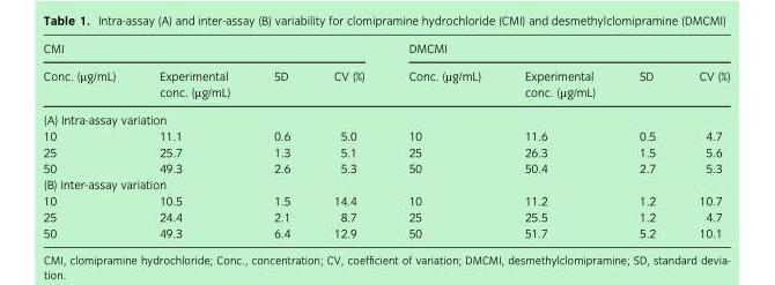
<table><thead><tr><td colspan="4">CMI</td><td colspan="4">DMCMI</td></tr><tr><td>Conc. (μg/mL)</td><td>Experimental conc. (μg/mL)</td><td>SD</td><td>CV (%)</td><td>Conc. (μg/mL)</td><td>Experimental conc. (μg/mL)</td><td>SD</td><td>CV (%)</td></tr></thead><tbody><tr><td colspan="8">(A) Intra-assay variation</td></tr><tr><td>10</td><td>11.1</td><td>0.6</td><td>5.0</td><td>10</td><td>11.6</td><td>0.5</td><td>4.7</td></tr><tr><td>25</td><td>25.7</td><td>1.3</td><td>5.1</td><td>25</td><td>26.3</td><td>1.5</td><td>5.6</td></tr><tr><td>50</td><td>49.3</td><td>2.6</td><td>5.3</td><td>50</td><td>50.4</td><td>2.7</td><td>5.3</td></tr><tr><td colspan="8">(B) Inter-assay variation</td></tr><tr><td>10</td><td>10.5</td><td>1.5</td><td>14.4</td><td>10</td><td>11.2</td><td>1.2</td><td>10.7</td></tr><tr><td>25</td><td>24.4</td><td>2.1</td><td>8.7</td><td>25</td><td>25.5</td><td>1.2</td><td>4.7</td></tr><tr><td>50</td><td>49.3</td><td>6.4</td><td>12.9</td><td>50</td><td>51.7</td><td>5.2</td><td>10.1</td></tr></tbody></table>